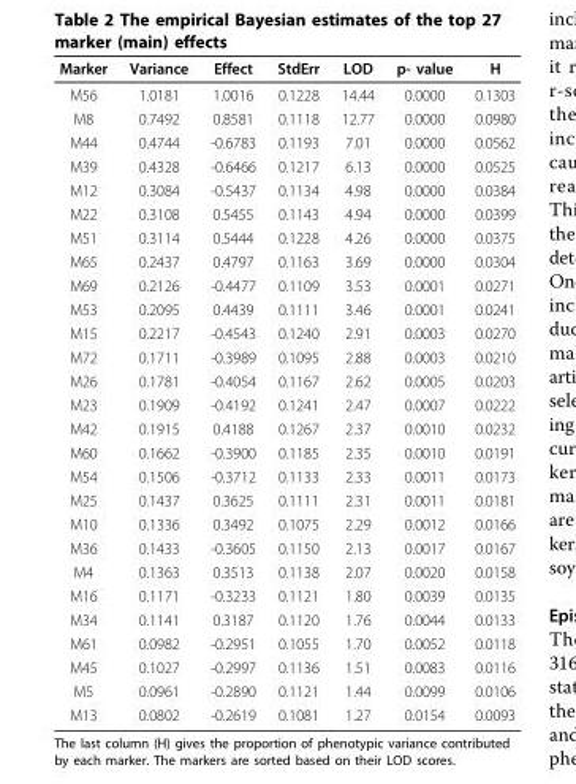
<table><thead><tr><td>Marker</td><td>Variance</td><td>Effect</td><td>StdErr</td><td>LOD</td><td>p- value</td><td>H</td></tr></thead><tbody><tr><td>M56</td><td>1.0181</td><td>1.0016</td><td>0.1228</td><td>14.44</td><td>0.0000</td><td>0.1303</td></tr><tr><td>M8</td><td>0.7492</td><td>0.8581</td><td>0.1118</td><td>12.77</td><td>0.0000</td><td>0.0980</td></tr><tr><td>M44</td><td>0.4744</td><td>-0.6783</td><td>0.1193</td><td>7.01</td><td>0.0000</td><td>0.0562</td></tr><tr><td>M39</td><td>0.4328</td><td>-0.6466</td><td>0.1217</td><td>6.13</td><td>0.0000</td><td>0.0525</td></tr><tr><td>M12</td><td>0.3084</td><td>-0.5437</td><td>0.1134</td><td>4.98</td><td>0.0000</td><td>0.0384</td></tr><tr><td>M22</td><td>0.3108</td><td>0.5455</td><td>0.1143</td><td>4.94</td><td>0.0000</td><td>0.0399</td></tr><tr><td>M51</td><td>0.3114</td><td>0.5444</td><td>0.1228</td><td>4.26</td><td>0.0000</td><td>0.0375</td></tr><tr><td>M65</td><td>0.2437</td><td>0.4797</td><td>0.1163</td><td>3.69</td><td>0.0000</td><td>0.0304</td></tr><tr><td>M69</td><td>0.2126</td><td>-0.4477</td><td>0.1109</td><td>3.53</td><td>0.0001</td><td>0.0271</td></tr><tr><td>M53</td><td>0.2095</td><td>0.4439</td><td>0.1111</td><td>3.46</td><td>0.0001</td><td>0.0241</td></tr><tr><td>M15</td><td>0.2217</td><td>-0.4543</td><td>0.1240</td><td>2.91</td><td>0.0003</td><td>0.0270</td></tr><tr><td>M72</td><td>0.1711</td><td>-0.3989</td><td>0.1095</td><td>2.88</td><td>0.0003</td><td>0.0210</td></tr><tr><td>M26</td><td>0.1781</td><td>-0.4054</td><td>0.1167</td><td>2.62</td><td>0.0005</td><td>0.0203</td></tr><tr><td>M23</td><td>0.1909</td><td>-0.4192</td><td>0.1241</td><td>2.47</td><td>0.0007</td><td>0.0222</td></tr><tr><td>M42</td><td>0.1915</td><td>0.4188</td><td>0.1267</td><td>2.37</td><td>0.0010</td><td>0.0232</td></tr><tr><td>M60</td><td>0.1662</td><td>-0.3900</td><td>0.1185</td><td>2.35</td><td>0.0010</td><td>0.0191</td></tr><tr><td>M54</td><td>0.1506</td><td>-0.3712</td><td>0.1133</td><td>2.33</td><td>0.0011</td><td>0.0173</td></tr><tr><td>M25</td><td>0.1437</td><td>0.3625</td><td>0.1111</td><td>2.31</td><td>0.0011</td><td>0.0181</td></tr><tr><td>M10</td><td>0.1336</td><td>0.3492</td><td>0.1075</td><td>2.29</td><td>0.0012</td><td>0.0166</td></tr><tr><td>M36</td><td>0.1433</td><td>-0.3605</td><td>0.1150</td><td>2.13</td><td>0.0017</td><td>0.0167</td></tr><tr><td>M4</td><td>0.1363</td><td>0.3513</td><td>0.1138</td><td>2.07</td><td>0.0020</td><td>0.0158</td></tr><tr><td>M16</td><td>0.1171</td><td>-0.3233</td><td>0.1121</td><td>1.80</td><td>0.0039</td><td>0.0135</td></tr><tr><td>M34</td><td>0.1141</td><td>0.3187</td><td>0.1120</td><td>1.76</td><td>0.0044</td><td>0.0133</td></tr><tr><td>M61</td><td>0.0982</td><td>-0.2951</td><td>0.1055</td><td>1.70</td><td>0.0052</td><td>0.0118</td></tr><tr><td>M45</td><td>0.1027</td><td>-0.2997</td><td>0.1136</td><td>1.51</td><td>0.0083</td><td>0.0116</td></tr><tr><td>M5</td><td>0.0961</td><td>-0.2890</td><td>0.1121</td><td>1.44</td><td>0.0099</td><td>0.0106</td></tr><tr><td>M13</td><td>0.0802</td><td>-0.2619</td><td>0.1081</td><td>1.27</td><td>0.0154</td><td>0.0093</td></tr></tbody></table>